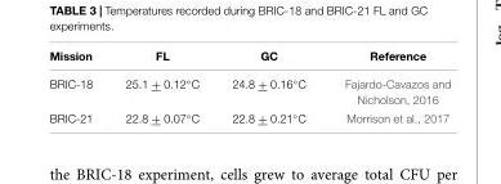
<table><thead><tr><td>Mission</td><td>FL</td><td>GC</td><td>Reference</td></tr></thead><tbody><tr><td>BRIC-18</td><td>25.1 + 0.12◦C</td><td>24.8 + 0.16◦C</td><td>Fajardo-Cavazos and Nicholson, 2016</td></tr><tr><td>BRIC-21</td><td>22.8 + 0.07◦C</td><td>22.8 + 0.21◦C</td><td>Morrison et al., 2017</td></tr></tbody></table>